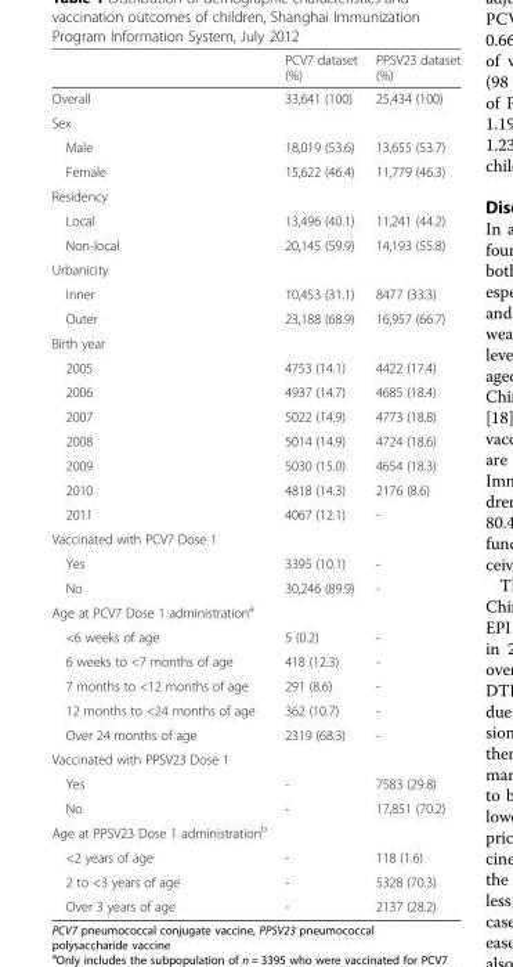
<table><thead><tr><td></td><td>PCV7 dataset (%)</td><td>PPSV23 dataset (%)</td></tr></thead><tbody><tr><td>Overall</td><td>33,641 (100)</td><td>25,434 (100)</td></tr><tr><td colspan="3">Sex</td></tr><tr><td>Male</td><td>18,019 (53.6)</td><td>13,655 (53.7)</td></tr><tr><td>Female</td><td>15,622 (46.4)</td><td>11,779 (46.3)</td></tr><tr><td colspan="3">Residency</td></tr><tr><td>Local</td><td>13,496 (40.1)</td><td>11,241 (44.2)</td></tr><tr><td>Non-local</td><td>20,145 (59.9)</td><td>14,193 (55.8)</td></tr><tr><td colspan="3">Urbanicity</td></tr><tr><td>Inner</td><td>10,453 (31.1)</td><td>8477 (33.3)</td></tr><tr><td>Outer</td><td>23,188 (68.9)</td><td>16,957 (66.7)</td></tr><tr><td colspan="3">Birth year</td></tr><tr><td>2005</td><td>4753 (14.1)</td><td>4422 (17.4)</td></tr><tr><td>2006</td><td>4937 (14.7)</td><td>4685 (18.4)</td></tr><tr><td>2007</td><td>5022 (14.9)</td><td>4773 (18.8)</td></tr><tr><td>2008</td><td>5014 (14.9)</td><td>4724 (18.6)</td></tr><tr><td>2009</td><td>5030 (15.0)</td><td>4654 (18.3)</td></tr><tr><td>2010</td><td>4818 (14.3)</td><td>2176 (8.6)</td></tr><tr><td>2011</td><td>4067 (12.1)</td><td>-</td></tr><tr><td colspan="3">Vaccinated with PCV7 Dose 1</td></tr><tr><td>Yes</td><td>3395 (10.1)</td><td>-</td></tr><tr><td>No</td><td>30,246 (89.9)</td><td>-</td></tr><tr><td colspan="3">Age at PCV7 Dose 1 administration<sup>a</sup></td></tr><tr><td>&lt;6 weeks of age</td><td>5 (0.2)</td><td>-</td></tr><tr><td>6 weeks to &lt;7 months of age</td><td>418 (12.3)</td><td>-</td></tr><tr><td>7 months to &lt;12 months of age</td><td>291 (8.6)</td><td>-</td></tr><tr><td>12 months to &lt;24 months of age</td><td>362 (10.7)</td><td>-</td></tr><tr><td>Over 24 months of age</td><td>2319 (68.3)</td><td>-</td></tr><tr><td colspan="3">Vaccinated with PPSV23 Dose 1</td></tr><tr><td>Yes</td><td>-</td><td>7583 (29.8)</td></tr><tr><td>No</td><td>-</td><td>17,851 (70.2)</td></tr><tr><td colspan="3">Age at PPSV23 Dose 1 administration<sup>b</sup></td></tr><tr><td>&lt;2 years of age</td><td>-</td><td>118 (1.6)</td></tr><tr><td>2 to &lt;3 years of age</td><td>-</td><td>5328 (70.3)</td></tr><tr><td>Over 3 years of age</td><td>-</td><td>2137 (28.2)</td></tr></tbody></table>